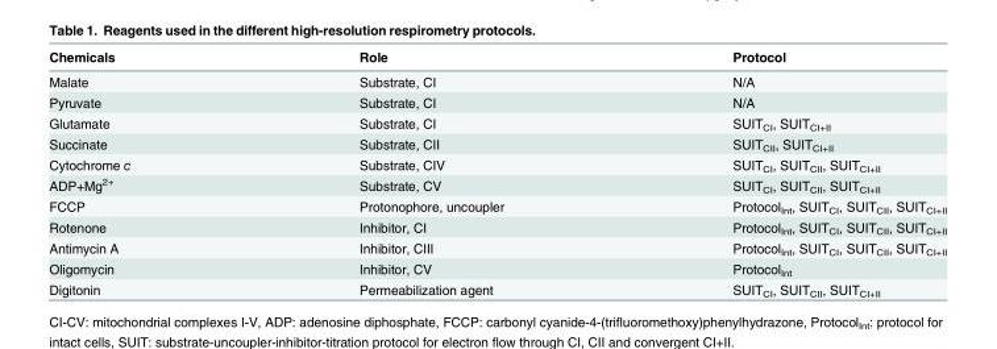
<table><thead><tr><td>Chemicals</td><td>Role</td><td>Protocol</td></tr></thead><tbody><tr><td>Malate</td><td>Substrate, CI</td><td>N/A</td></tr><tr><td>Pyruvate</td><td>Substrate, CI</td><td>N/A</td></tr><tr><td>Glutamate</td><td>Substrate, CI</td><td>SUIT<sub>CI</sub>, SUIT<sub>CI+II</sub></td></tr><tr><td>Succinate</td><td>Substrate, CII</td><td>SUIT<sub>CII</sub>, SUIT<sub>CI+II</sub></td></tr><tr><td>Cytochrome c</td><td>Substrate, CIV</td><td>SUIT<sub>CI</sub>, SUIT<sub>CII</sub>, SUIT<sub>CI+II</sub></td></tr><tr><td>ADP+Mg<sup>2+</sup></td><td>Substrate, CV</td><td>SUIT<sub>CI</sub>, SUIT<sub>CII</sub>, SUIT<sub>CI+II</sub></td></tr><tr><td>FCCP</td><td>Protonophore, uncoupler</td><td>Protocol<sub>Int</sub>, SUIT<sub>CI</sub>, SUIT<sub>CII</sub>, SUIT<sub>CI+II</sub></td></tr><tr><td>Rotenone</td><td>Inhibitor, CI</td><td>Protocol<sub>Int</sub>, SUIT<sub>CI</sub>, SUIT<sub>CII</sub>, SUIT<sub>CI+II</sub></td></tr><tr><td>Antimycin A</td><td>Inhibitor, CIII</td><td>Protocol<sub>Int</sub>, SUIT<sub>CI</sub>, SUIT<sub>CII</sub>, SUIT<sub>CI+II</sub></td></tr><tr><td>Oligomycin</td><td>Inhibitor, CV</td><td>Protocol<sub>Int</sub></td></tr><tr><td>Digitonin</td><td>Permeabilization agent</td><td>SUIT<sub>CI</sub>, SUIT<sub>CII</sub>, SUIT<sub>CI+II</sub></td></tr></tbody></table>